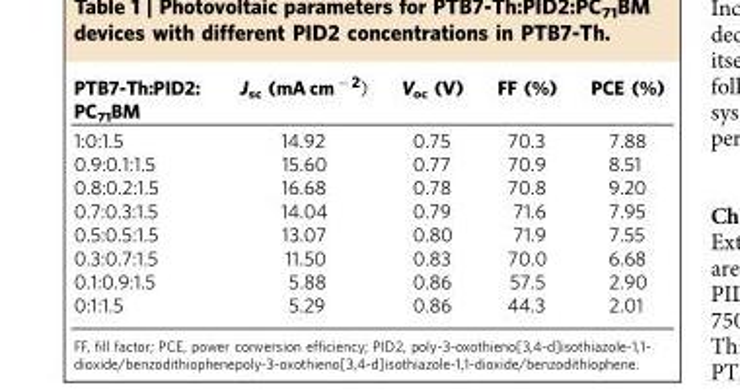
<table><thead><tr><td>PTB7-Th:PID2: PC<sub>71</sub>BM</td><td>J<sub>sc</sub> (mA cm <sup>− 2</sup>)</td><td>V<sub>oc</sub> (V)</td><td>FF (%)</td><td>PCE (%)</td></tr></thead><tbody><tr><td>1:0:1.5</td><td>14.92</td><td>0.75</td><td>70.3</td><td>7.88</td></tr><tr><td>0.9:0.1:1.5</td><td>15.60</td><td>0.77</td><td>70.9</td><td>8.51</td></tr><tr><td>0.8:0.2:1.5</td><td>16.68</td><td>0.78</td><td>70.8</td><td>9.20</td></tr><tr><td>0.7:0.3:1.5</td><td>14.04</td><td>0.79</td><td>71.6</td><td>7.95</td></tr><tr><td>0.5:0.5:1.5</td><td>13.07</td><td>0.80</td><td>71.9</td><td>7.55</td></tr><tr><td>0.3:0.7:1.5</td><td>11.50</td><td>0.83</td><td>70.0</td><td>6.68</td></tr><tr><td>0.1:0.9:1.5</td><td>5.88</td><td>0.86</td><td>57.5</td><td>2.90</td></tr><tr><td>0:1:1.5</td><td>5.29</td><td>0.86</td><td>44.3</td><td>2.01</td></tr></tbody></table>